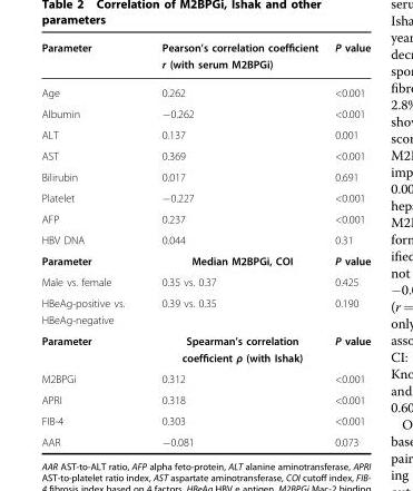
<table><thead><tr><td>Parameter</td><td>Pearson’s correlation coefficient r (with serum M2BPGi)</td><td>P value</td></tr></thead><tbody><tr><td>Age</td><td>0.262</td><td>&lt;0.001</td></tr><tr><td>Albumin</td><td>−0.262</td><td>&lt;0.001</td></tr><tr><td>ALT</td><td>0.137</td><td>0.001</td></tr><tr><td>AST</td><td>0.369</td><td>&lt;0.001</td></tr><tr><td>Bilirubin</td><td>0.017</td><td>0.691</td></tr><tr><td>Platelet</td><td>−0.227</td><td>&lt;0.001</td></tr><tr><td>AFP</td><td>0.237</td><td>&lt;0.001</td></tr><tr><td>HBV DNA</td><td>0.044</td><td>0.31</td></tr><tr><td>Parameter</td><td>Median M2BPGi, COI</td><td>P value</td></tr><tr><td>Male vs. female</td><td>0.35 vs. 0.37</td><td>0.425</td></tr><tr><td>HBeAg-positive vs. HBeAg-negative</td><td>0.39 vs. 0.35</td><td>0.190</td></tr><tr><td>Parameter</td><td>Spearman’s correlation coefficient ρ (with Ishak)</td><td>P value</td></tr><tr><td>M2BPGi</td><td>0.312</td><td>&lt;0.001</td></tr><tr><td>APRI</td><td>0.318</td><td>&lt;0.001</td></tr><tr><td>FIB-4</td><td>0.303</td><td>&lt;0.001</td></tr><tr><td>AAR</td><td>−0.081</td><td>0.073</td></tr></tbody></table>